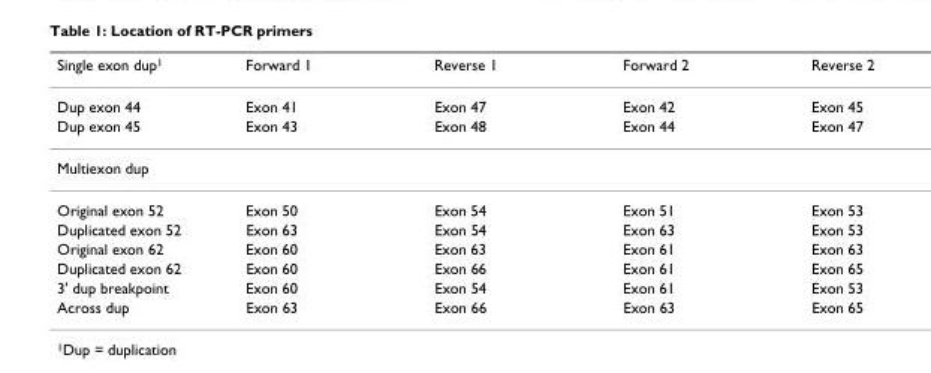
<table><thead><tr><td>Single exon dup<sup>1</sup></td><td>Forward 1</td><td>Reverse 1</td><td>Forward 2</td><td>Reverse 2</td></tr></thead><tbody><tr><td>Dup exon 44</td><td>Exon 41</td><td>Exon 47</td><td>Exon 42</td><td>Exon 45</td></tr><tr><td>Dup exon 45</td><td>Exon 43</td><td>Exon 48</td><td>Exon 44</td><td>Exon 47</td></tr><tr><td colspan="5">Multiexon dup</td></tr><tr><td>Original exon 52</td><td>Exon 50</td><td>Exon 54</td><td>Exon 51</td><td>Exon 53</td></tr><tr><td>Duplicated exon 52</td><td>Exon 63</td><td>Exon 54</td><td>Exon 63</td><td>Exon 53</td></tr><tr><td>Original exon 62</td><td>Exon 60</td><td>Exon 63</td><td>Exon 61</td><td>Exon 63</td></tr><tr><td>Duplicated exon 62</td><td>Exon 60</td><td>Exon 66</td><td>Exon 61</td><td>Exon 65</td></tr><tr><td>3&#x27; dup breakpoint</td><td>Exon 60</td><td>Exon 54</td><td>Exon 61</td><td>Exon 53</td></tr><tr><td>Across dup</td><td>Exon 63</td><td>Exon 66</td><td>Exon 63</td><td>Exon 65</td></tr></tbody></table>